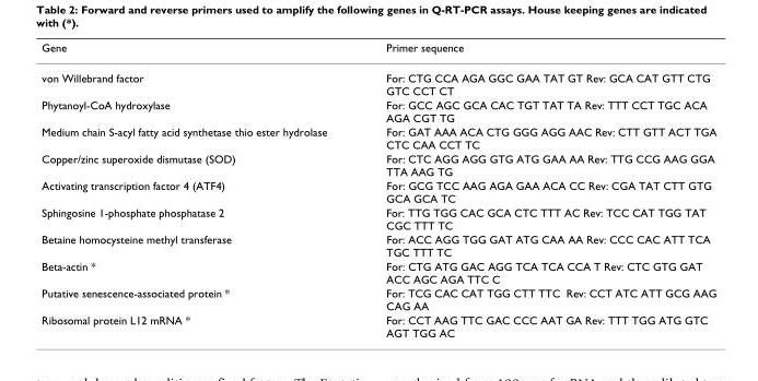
<table><thead><tr><td>Gene</td><td>Primer sequence</td></tr></thead><tbody><tr><td>von Willebrand factor</td><td>For: CTG CCA AGA GGC GAA TAT GT Rev: GCA CAT GTT CTG GTC CCT CT</td></tr><tr><td>Phytanoyl-CoA hydroxylase</td><td>For: GCC AGC GCA CAC TGT TAT TA Rev: TTT CCT TGC ACA AGA CGT TG</td></tr><tr><td>Medium chain S-acyl fatty acid synthetase thio ester hydrolase</td><td>For: GAT AAA ACA CTG GGG AGG AAC Rev: CTT GTT ACT TGA CTC CAA CCT TC</td></tr><tr><td>Copper/zinc superoxide dismutase (SOD)</td><td>For: CTC AGG AGG GTG ATG GAA AA Rev: TTG CCG AAG GGA TTA AAG TG</td></tr><tr><td>Activating transcription factor 4 (ATF4)</td><td>For: GCG TCC AAG AGA GAA ACA CC Rev: CGA TAT CTT GTG GCA GCA TC</td></tr><tr><td>Sphingosine 1-phosphate phosphatase 2</td><td>For: TTG TGG CAC GCA CTC TTT AC Rev: TCC CAT TGG TAT CGC TTT TC</td></tr><tr><td>Betaine homocysteine methyl transferase</td><td>For: ACC AGG TGG GAT ATG CAA AA Rev: CCC CAC ATT TCA TGC TTT TC</td></tr><tr><td>Beta-actin *</td><td>For: CTG ATG GAC AGG TCA TCA CCA T Rev: CTC GTG GAT ACC AGC AGA TTC C</td></tr><tr><td>Putative senescence-associated protein *</td><td>For: TCG CAC CAT TGG CTT TTC Rev: CCT ATC ATT GCG AAG CAG AA</td></tr><tr><td>Ribosomal protein L12 mRNA *</td><td>For: CCT AAG TTC GAC CCC AAT GA Rev: TTT TGG ATG GTC AGT TGG AC</td></tr></tbody></table>